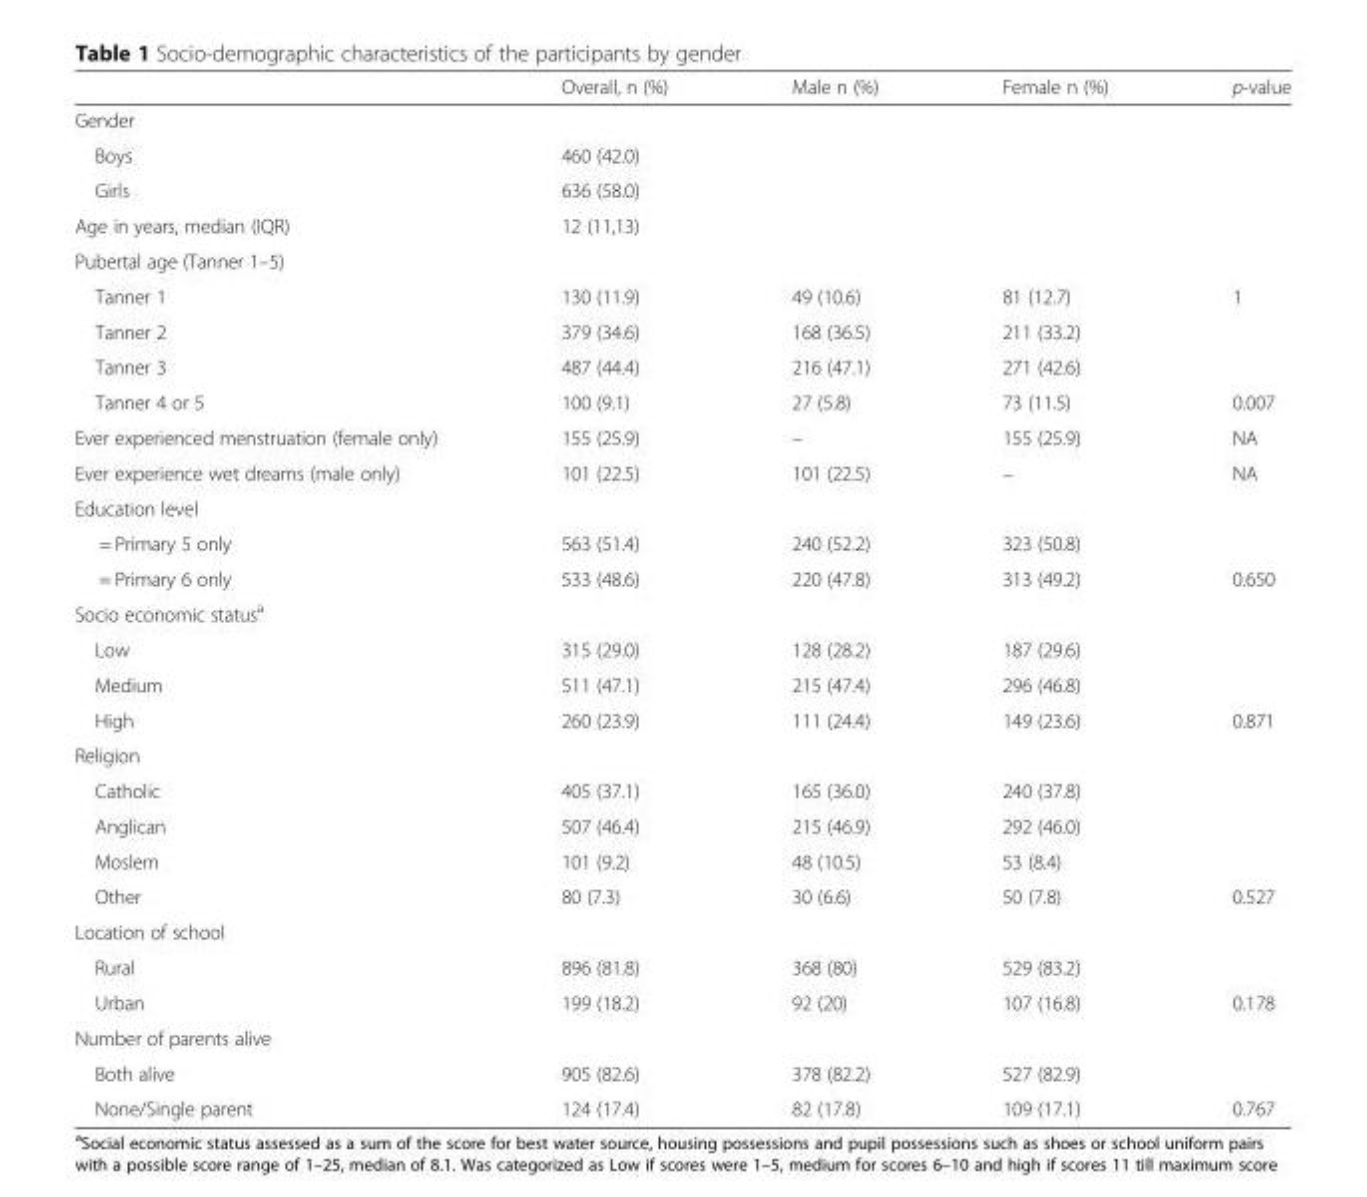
<table><thead><tr><td></td><td>Overall, n (%)</td><td>Male n (%)</td><td>Female n (%)</td><td>p-value</td></tr></thead><tbody><tr><td colspan="5">Gender</td></tr><tr><td>Boys</td><td>460 (42.0)</td><td></td><td></td><td></td></tr><tr><td>Girls</td><td>636 (58.0)</td><td></td><td></td><td></td></tr><tr><td>Age in years, median (IQR)</td><td>12 (11,13)</td><td></td><td></td><td></td></tr><tr><td colspan="5">Pubertal age (Tanner 1–5)</td></tr><tr><td>Tanner 1</td><td>130 (11.9)</td><td>49 (10.6)</td><td>81 (12.7)</td><td>1</td></tr><tr><td>Tanner 2</td><td>379 (34.6)</td><td>168 (36.5)</td><td>211 (33.2)</td><td></td></tr><tr><td>Tanner 3</td><td>487 (44.4)</td><td>216 (47.1)</td><td>271 (42.6)</td><td></td></tr><tr><td>Tanner 4 or 5</td><td>100 (9.1)</td><td>27 (5.8)</td><td>73 (11.5)</td><td>0.007</td></tr><tr><td>Ever experienced menstruation (female only)</td><td>155 (25.9)</td><td>–</td><td>155 (25.9)</td><td>NA</td></tr><tr><td>Ever experience wet dreams (male only)</td><td>101 (22.5)</td><td>101 (22.5)</td><td>–</td><td>NA</td></tr><tr><td colspan="5">Education level</td></tr><tr><td>= Primary 5 only</td><td>563 (51.4)</td><td>240 (52.2)</td><td>323 (50.8)</td><td></td></tr><tr><td>= Primary 6 only</td><td>533 (48.6)</td><td>220 (47.8)</td><td>313 (49.2)</td><td>0.650</td></tr><tr><td colspan="5">Socio economic status<sup>a</sup></td></tr><tr><td>Low</td><td>315 (29.0)</td><td>128 (28.2)</td><td>187 (29.6)</td><td></td></tr><tr><td>Medium</td><td>511 (47.1)</td><td>215 (47.4)</td><td>296 (46.8)</td><td></td></tr><tr><td>High</td><td>260 (23.9)</td><td>111 (24.4)</td><td>149 (23.6)</td><td>0.871</td></tr><tr><td colspan="5">Religion</td></tr><tr><td>Catholic</td><td>405 (37.1)</td><td>165 (36.0)</td><td>240 (37.8)</td><td></td></tr><tr><td>Anglican</td><td>507 (46.4)</td><td>215 (46.9)</td><td>292 (46.0)</td><td></td></tr><tr><td>Moslem</td><td>101 (9.2)</td><td>48 (10.5)</td><td>53 (8.4)</td><td></td></tr><tr><td>Other</td><td>80 (7.3)</td><td>30 (6.6)</td><td>50 (7.8)</td><td>0.527</td></tr><tr><td colspan="5">Location of school</td></tr><tr><td>Rural</td><td>896 (81.8)</td><td>368 (80)</td><td>529 (83.2)</td><td></td></tr><tr><td>Urban</td><td>199 (18.2)</td><td>92 (20)</td><td>107 (16.8)</td><td>0.178</td></tr><tr><td colspan="5">Number of parents alive</td></tr><tr><td>Both alive</td><td>905 (82.6)</td><td>378 (82.2)</td><td>527 (82.9)</td><td></td></tr><tr><td>None/Single parent</td><td>124 (17.4)</td><td>82 (17.8)</td><td>109 (17.1)</td><td>0.767</td></tr></tbody></table>